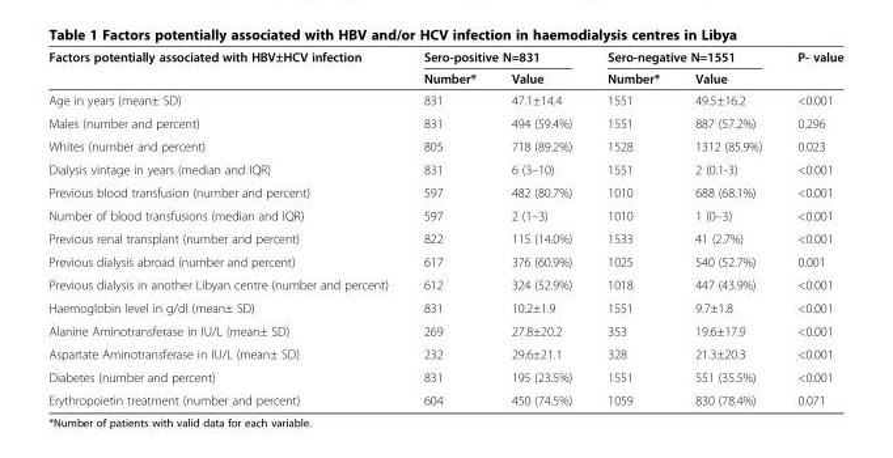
<table><thead><tr><td rowspan="2">Factors potentially associated with HBV±HCV infection</td><td colspan="2">Sero-positive N=831</td><td colspan="2">Sero-negative N=1551</td><td rowspan="2">P- value</td></tr><tr><td>Number*</td><td>Value</td><td>Number*</td><td>Value</td></tr></thead><tbody><tr><td>Age in years (mean± SD)</td><td>831</td><td>47.1±14.4</td><td>1551</td><td>49.5±16.2</td><td>&lt;0.001</td></tr><tr><td>Males (number and percent)</td><td>831</td><td>494 (59.4%)</td><td>1551</td><td>887 (57.2%)</td><td>0.296</td></tr><tr><td>Whites (number and percent)</td><td>805</td><td>718 (89.2%)</td><td>1528</td><td>1312 (85.9%)</td><td>0.023</td></tr><tr><td>Dialysis vintage in years (median and IQR)</td><td>831</td><td>6 (3–10)</td><td>1551</td><td>2 (0.1-3)</td><td>&lt;0.001</td></tr><tr><td>Previous blood transfusion (number and percent)</td><td>597</td><td>482 (80.7%)</td><td>1010</td><td>688 (68.1%)</td><td>&lt;0.001</td></tr><tr><td>Number of blood transfusions (median and IQR)</td><td>597</td><td>2 (1–3)</td><td>1010</td><td>1 (0–3)</td><td>&lt;0.001</td></tr><tr><td>Previous renal transplant (number and percent)</td><td>822</td><td>115 (14.0%)</td><td>1533</td><td>41 (2.7%)</td><td>&lt;0.001</td></tr><tr><td>Previous dialysis abroad (number and percent)</td><td>617</td><td>376 (60.9%)</td><td>1025</td><td>540 (52.7%)</td><td>0.001</td></tr><tr><td>Previous dialysis in another Libyan centre (number and percent)</td><td>612</td><td>324 (52.9%)</td><td>1018</td><td>447 (43.9%)</td><td>&lt;0.001</td></tr><tr><td>Haemoglobin level in g/dl (mean± SD)</td><td>831</td><td>10.2±1.9</td><td>1551</td><td>9.7±1.8</td><td>&lt;0.001</td></tr><tr><td>Alanine Aminotransferase in IU/L (mean± SD)</td><td>269</td><td>27.8±20.2</td><td>353</td><td>19.6±17.9</td><td>&lt;0.001</td></tr><tr><td>Aspartate Aminotransferase in IU/L (mean± SD)</td><td>232</td><td>29.6±21.1</td><td>328</td><td>21.3±20.3</td><td>&lt;0.001</td></tr><tr><td>Diabetes (number and percent)</td><td>831</td><td>195 (23.5%)</td><td>1551</td><td>551 (35.5%)</td><td>&lt;0.001</td></tr><tr><td>Erythropoietin treatment (number and percent)</td><td>604</td><td>450 (74.5%)</td><td>1059</td><td>830 (78.4%)</td><td>0.071</td></tr></tbody></table>